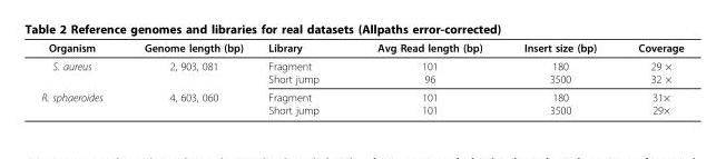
<table><thead><tr><td>Organism</td><td>Genome length (bp)</td><td>Library</td><td>Avg Read length (bp)</td><td>Insert size (bp)</td><td>Coverage</td></tr></thead><tbody><tr><td>S. aureus</td><td>2, 903, 081</td><td>Fragment Short jump</td><td>101 96</td><td>180 3500</td><td>29 × 32 ×</td></tr><tr><td>R. sphaeroides</td><td>4, 603, 060</td><td>Fragment Short jump</td><td>101 101</td><td>180 3500</td><td>31× 29×</td></tr></tbody></table>